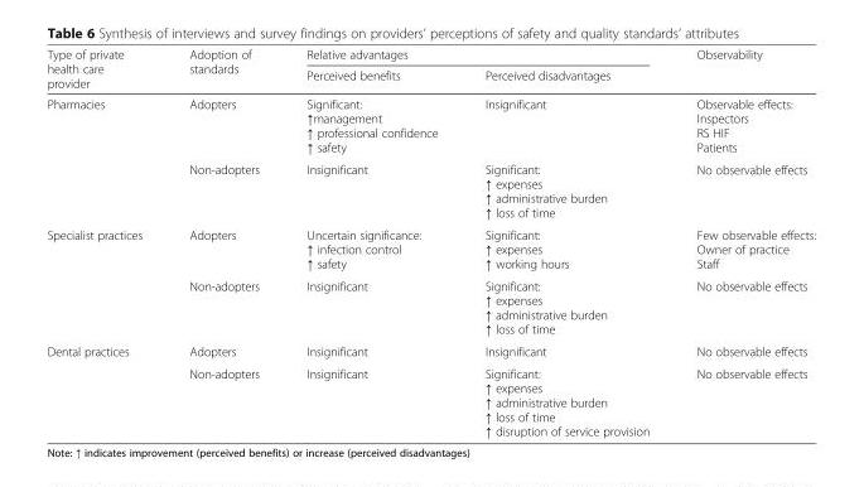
<table><thead><tr><td rowspan="2">Type of private health care provider</td><td rowspan="2">Adoption of standards</td><td colspan="2">Relative advantages</td><td rowspan="2">Observability</td></tr><tr><td>Perceived benefits</td><td>Perceived disadvantages</td></tr></thead><tbody><tr><td rowspan="2">Pharmacies</td><td>Adopters</td><td>Significant: ↑management ↑ professional confidence ↑ safety</td><td>Insignificant</td><td>Observable effects: Inspectors RS HIF Patients</td></tr><tr><td>Non-adopters</td><td>Insignificant</td><td>Significant: ↑ expenses ↑ administrative burden ↑ loss of time</td><td>No observable effects</td></tr><tr><td rowspan="2">Specialist practices</td><td>Adopters</td><td>Uncertain significance: ↑ infection control ↑ safety</td><td>Significant: ↑ expenses ↑ working hours</td><td>Few observable effects: Owner of practice Staff</td></tr><tr><td>Non-adopters</td><td>Insignificant</td><td>Significant: ↑ expenses ↑ administrative burden ↑ loss of time</td><td>No observable effects</td></tr><tr><td rowspan="2">Dental practices</td><td>Adopters</td><td>Insignificant</td><td>Insignificant</td><td>No observable effects</td></tr><tr><td>Non-adopters</td><td>Insignificant</td><td>Significant: ↑ expenses ↑ administrative burden ↑ loss of time ↑ disruption of service provision</td><td>No observable effects</td></tr></tbody></table>